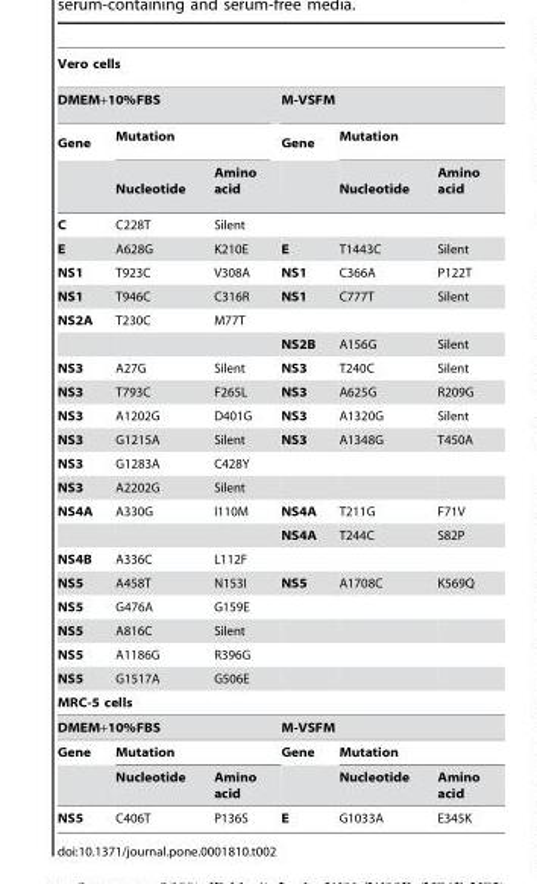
<table><thead><tr><td colspan="6">Vero cells</td></tr><tr><td colspan="3">DMEM+10%FBS</td><td colspan="3">M-VSFM</td></tr><tr><td rowspan="2">Gene</td><td colspan="2">Mutation</td><td rowspan="2">Gene</td><td colspan="2">Mutation</td></tr><tr><td>Nucleotide</td><td>Amino acid</td><td>Nucleotide</td><td>Amino acid</td></tr></thead><tbody><tr><td>C</td><td>C228T</td><td>Silent</td><td></td><td></td><td></td></tr><tr><td>E</td><td>A628G</td><td>K210E</td><td>E</td><td>T1443C</td><td>Silent</td></tr><tr><td>NS1</td><td>T923C</td><td>V308A</td><td>NS1</td><td>C366A</td><td>P122T</td></tr><tr><td>NS1</td><td>T946C</td><td>C316R</td><td>NS1</td><td>C777T</td><td>Silent</td></tr><tr><td rowspan="2">NS2A</td><td>T230C</td><td>M77T</td><td></td><td></td><td></td></tr><tr><td></td><td></td><td>NS2B</td><td>A156G</td><td>Silent</td></tr><tr><td>NS3</td><td>A27G</td><td>Silent</td><td>NS3</td><td>T240C</td><td>Silent</td></tr><tr><td>NS3</td><td>T793C</td><td>F265L</td><td>NS3</td><td>A625G</td><td>R209G</td></tr><tr><td>NS3</td><td>A1202G</td><td>D401G</td><td>NS3</td><td>A1320G</td><td>Silent</td></tr><tr><td>NS3</td><td>G1215A</td><td>Silent</td><td>NS3</td><td>A1348G</td><td>T450A</td></tr><tr><td>NS3</td><td>G1283A</td><td>C428Y</td><td></td><td></td><td></td></tr><tr><td>NS3</td><td>A2202G</td><td>Silent</td><td></td><td></td><td></td></tr><tr><td rowspan="2">NS4A</td><td>A330G</td><td>I110M</td><td>NS4A</td><td>T211G</td><td>F71V</td></tr><tr><td></td><td></td><td>NS4A</td><td>T244C</td><td>S82P</td></tr><tr><td>NS4B</td><td>A336C</td><td>L112F</td><td></td><td></td><td></td></tr><tr><td>NS5</td><td>A458T</td><td>N153I</td><td>NS5</td><td>A1708C</td><td>K569Q</td></tr><tr><td>NS5</td><td>G476A</td><td>G159E</td><td></td><td></td><td></td></tr><tr><td>NS5</td><td>A816C</td><td>Silent</td><td></td><td></td><td></td></tr><tr><td>NS5</td><td>A1186G</td><td>R396G</td><td></td><td></td><td></td></tr><tr><td>NS5</td><td>G1517A</td><td>G506E</td><td></td><td></td><td></td></tr><tr><td colspan="6">MRC-5 cells</td></tr><tr><td colspan="3">DMEM+10%FBS</td><td colspan="3">M-VSFM</td></tr><tr><td rowspan="2">Gene</td><td colspan="2">Mutation</td><td>Gene</td><td colspan="2">Mutation</td></tr><tr><td>Nucleotide</td><td>Amino acid</td><td></td><td>Nucleotide</td><td>Amino acid</td></tr><tr><td>NS5</td><td>C406T</td><td>P136S</td><td>E</td><td>G1033A</td><td>E345K</td></tr></tbody></table>